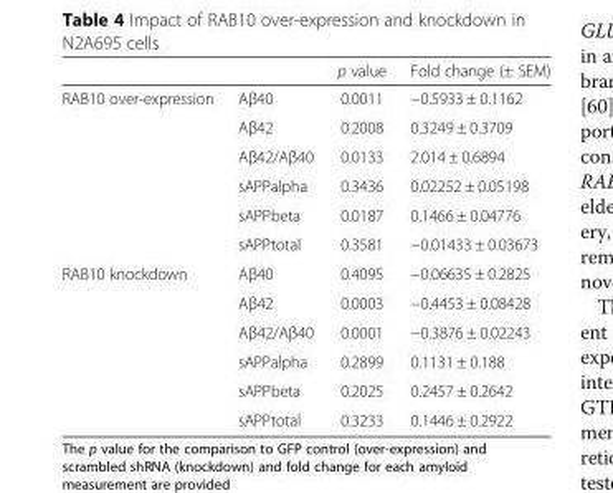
<table><thead><tr><td></td><td></td><td>p value</td><td>Fold change (± SEM)</td></tr></thead><tbody><tr><td rowspan="6">RAB10 over-expression</td><td>Aβ40</td><td>0.0011</td><td>−0.5933 ± 0.1162</td></tr><tr><td>Aβ42</td><td>0.2008</td><td>0.3249 ± 0.3709</td></tr><tr><td>Aβ42/Aβ40</td><td>0.0133</td><td>2.014 ± 0.6894</td></tr><tr><td>sAPPalpha</td><td>0.3436</td><td>0.02252 ± 0.05198</td></tr><tr><td>sAPPbeta</td><td>0.0187</td><td>0.1466 ± 0.04776</td></tr><tr><td>sAPPtotal</td><td>0.3581</td><td>−0.01433 ± 0.03673</td></tr><tr><td rowspan="6">RAB10 knockdown</td><td>Aβ40</td><td>0.4095</td><td>−0.06635 ± 0.2825</td></tr><tr><td>Aβ42</td><td>0.0003</td><td>−0.4453 ± 0.08428</td></tr><tr><td>Aβ42/Aβ40</td><td>0.0001</td><td>−0.3876 ± 0.02243</td></tr><tr><td>sAPPalpha</td><td>0.2899</td><td>0.1131 ± 0.188</td></tr><tr><td>sAPPbeta</td><td>0.2025</td><td>0.2457 ± 0.2642</td></tr><tr><td>sAPPtotal</td><td>0.3233</td><td>0.1446 ± 0.2922</td></tr></tbody></table>